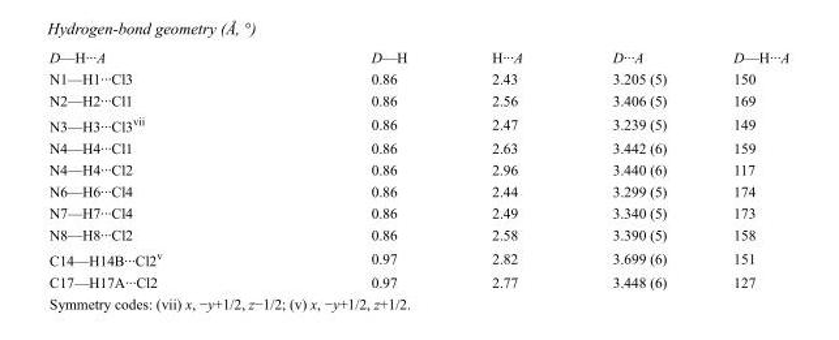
<table><tbody><tr><td>D—H···A</td><td>D—H</td><td>H···A</td><td>D···A</td><td>D—H···A</td></tr><tr><td>N1—H1···Cl3</td><td>0.86</td><td>2.43</td><td>3.205 (5)</td><td>150</td></tr><tr><td>N2—H2···Cl1</td><td>0.86</td><td>2.56</td><td>3.406 (5)</td><td>169</td></tr><tr><td>N3—H3···Cl3<sup>vii</sup></td><td>0.86</td><td>2.47</td><td>3.239 (5)</td><td>149</td></tr><tr><td>N4—H4···Cl1</td><td>0.86</td><td>2.63</td><td>3.442 (6)</td><td>159</td></tr><tr><td>N4—H4···Cl2</td><td>0.86</td><td>2.96</td><td>3.440 (6)</td><td>117</td></tr><tr><td>N6—H6···Cl4</td><td>0.86</td><td>2.44</td><td>3.299 (5)</td><td>174</td></tr><tr><td>N7—H7···Cl4</td><td>0.86</td><td>2.49</td><td>3.340 (5)</td><td>173</td></tr><tr><td>N8—H8···Cl2</td><td>0.86</td><td>2.58</td><td>3.390 (5)</td><td>158</td></tr><tr><td>C14—H14B···Cl2<sup>v</sup></td><td>0.97</td><td>2.82</td><td>3.699 (6)</td><td>151</td></tr><tr><td>C17—H17A···Cl2</td><td>0.97</td><td>2.77</td><td>3.448 (6)</td><td>127</td></tr></tbody></table>